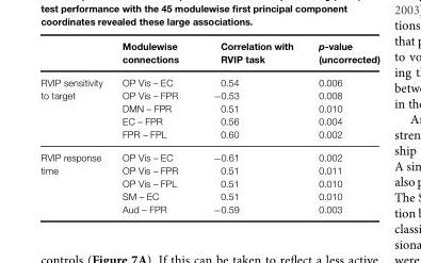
<table><thead><tr><td></td><td>Modulewise connections</td><td>Correlation with RVIP task</td><td>p-value (uncorrected)</td></tr></thead><tbody><tr><td>RVIP sensitivity to target</td><td>OP Vis – EC OP Vis – FPR DMN – FPR EC – FPR FPR – FPL</td><td>0.54 −0.53 0.51 0.56 0.60</td><td>0.006 0.008 0.010 0.004 0.002</td></tr><tr><td>RVIP response time</td><td>OP Vis – EC OP Vis – FPR OP Vis – FPL SM – EC Aud – FPR</td><td>−0.61 0.51 0.51 0.51 −0.59</td><td>0.002 0.011 0.010 0.010 0.003</td></tr></tbody></table>